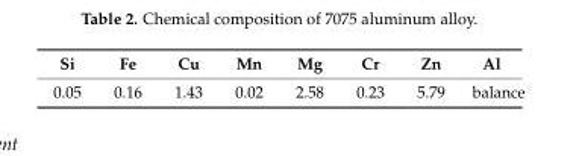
<table><thead><tr><td>Si</td><td>Fe</td><td>Cu</td><td>Mn</td><td>Mg</td><td>Cr</td><td>Zn</td><td>Al</td></tr></thead><tbody><tr><td>0.05</td><td>0.16</td><td>1.43</td><td>0.02</td><td>2.58</td><td>0.23</td><td>5.79</td><td>balance</td></tr></tbody></table>